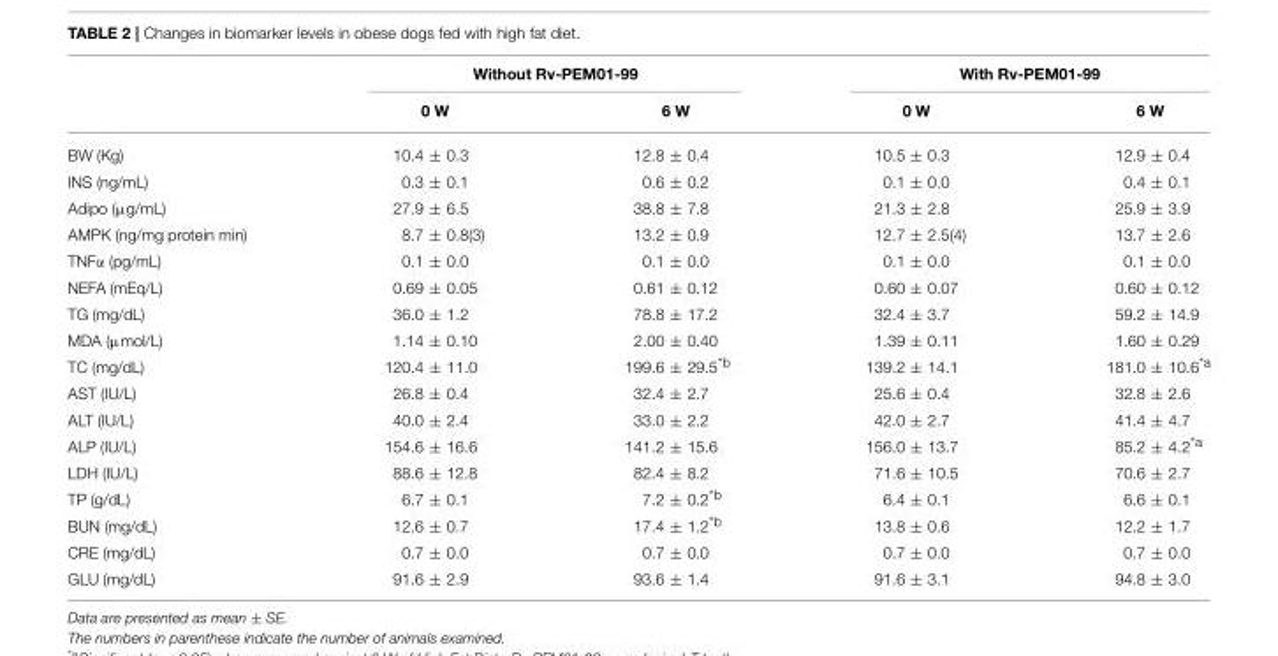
<table><thead><tr><td rowspan="2"></td><td colspan="2">Without Rv-PEM01-99</td><td colspan="2">With Rv-PEM01-99</td></tr><tr><td>0 W</td><td>6 W</td><td>0 W</td><td>6 W</td></tr></thead><tbody><tr><td>BW (Kg)</td><td>10.4 ± 0.3</td><td>12.8 ± 0.4</td><td>10.5 ± 0.3</td><td>12.9 ± 0.4</td></tr><tr><td>INS (ng/mL)</td><td>0.3 ± 0.1</td><td>0.6 ± 0.2</td><td>0.1 ± 0.0</td><td>0.4 ± 0.1</td></tr><tr><td>Adipo (µg/mL)</td><td>27.9 ± 6.5</td><td>38.8 ± 7.8</td><td>21.3 ± 2.8</td><td>25.9 ± 3.9</td></tr><tr><td>AMPK (ng/mg protein min)</td><td>8.7 ± 0.8(3)</td><td>13.2 ± 0.9</td><td>12.7 ± 2.5(4)</td><td>13.7 ± 2.6</td></tr><tr><td>TNFα (pg/mL)</td><td>0.1 ± 0.0</td><td>0.1 ± 0.0</td><td>0.1 ± 0.0</td><td>0.1 ± 0.0</td></tr><tr><td>NEFA (mEq/L)</td><td>0.69 ± 0.05</td><td>0.61 ± 0.12</td><td>0.60 ± 0.07</td><td>0.60 ± 0.12</td></tr><tr><td>TG (mg/dL)</td><td>36.0 ± 1.2</td><td>78.8 ± 17.2</td><td>32.4 ± 3.7</td><td>59.2 ± 14.9</td></tr><tr><td>MDA (µmol/L)</td><td>1.14 ± 0.10</td><td>2.00 ± 0.40</td><td>1.39 ± 0.11</td><td>1.60 ± 0.29</td></tr><tr><td>TC (mg/dL)</td><td>120.4 ± 11.0</td><td>199.6 ± 29.5<sup>*b</sup></td><td>139.2 ± 14.1</td><td>181.0 ± 10.6<sup>*a</sup></td></tr><tr><td>AST (IU/L)</td><td>26.8 ± 0.4</td><td>32.4 ± 2.7</td><td>25.6 ± 0.4</td><td>32.8 ± 2.6</td></tr><tr><td>ALT (IU/L)</td><td>40.0 ± 2.4</td><td>33.0 ± 2.2</td><td>42.0 ± 2.7</td><td>41.4 ± 4.7</td></tr><tr><td>ALP (IU/L)</td><td>154.6 ± 16.6</td><td>141.2 ± 15.6</td><td>156.0 ± 13.7</td><td>85.2 ± 4.2<sup>*a</sup></td></tr><tr><td>LDH (IU/L)</td><td>88.6 ± 12.8</td><td>82.4 ± 8.2</td><td>71.6 ± 10.5</td><td>70.6 ± 2.7</td></tr><tr><td>TP (g/dL)</td><td>6.7 ± 0.1</td><td>7.2 ± 0.2<sup>*b</sup></td><td>6.4 ± 0.1</td><td>6.6 ± 0.1</td></tr><tr><td>BUN (mg/dL)</td><td>12.6 ± 0.7</td><td>17.4 ± 1.2<sup>*b</sup></td><td>13.8 ± 0.6</td><td>12.2 ± 1.7</td></tr><tr><td>CRE (mg/dL)</td><td>0.7 ± 0.0</td><td>0.7 ± 0.0</td><td>0.7 ± 0.0</td><td>0.7 ± 0.0</td></tr><tr><td>GLU (mg/dL)</td><td>91.6 ± 2.9</td><td>93.6 ± 1.4</td><td>91.6 ± 3.1</td><td>94.8 ± 3.0</td></tr></tbody></table>